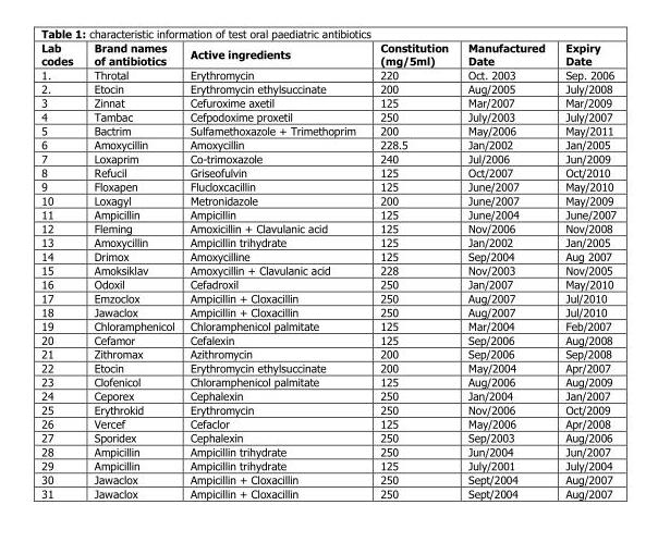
<table><thead><tr><td>Lab codes</td><td>Brand names of antibiotics</td><td>Active ingredients</td><td>Constitution (mg/5ml)</td><td>Manufactured Date</td><td>Expiry Date</td></tr></thead><tbody><tr><td>1.</td><td>Throtal</td><td>Erythromycin</td><td>220</td><td>Oct. 2003</td><td>Sep. 2006</td></tr><tr><td>2.</td><td>Etocin</td><td>Erythromycin ethylsuccinate</td><td>200</td><td>Aug/2005</td><td>July/2008</td></tr><tr><td>3</td><td>Zinnat</td><td>Cefuroxime axetil</td><td>125</td><td>Mar/2007</td><td>Mar/2009</td></tr><tr><td>4</td><td>Tambac</td><td>Cefpodoxime proxetil</td><td>250</td><td>July/2003</td><td>July/2007</td></tr><tr><td>5</td><td>Bactrim</td><td>Sulfamethoxazole + Trimethoprim</td><td>200</td><td>May/2006</td><td>May/2011</td></tr><tr><td>6</td><td>Amoxycillin</td><td>Amoxycillin</td><td>228.5</td><td>Jan/2002</td><td>Jan/2005</td></tr><tr><td>7</td><td>Loxaprim</td><td>Co-trimoxazole</td><td>240</td><td>Jul/2006</td><td>Jun/2009</td></tr><tr><td>8</td><td>Refucil</td><td>Griseofulvin</td><td>125</td><td>Oct/2007</td><td>Oct/2010</td></tr><tr><td>9</td><td>Floxapen</td><td>Flucloxcacillin</td><td>125</td><td>June/2007</td><td>May/2010</td></tr><tr><td>10</td><td>Loxagyl</td><td>Metronidazole</td><td>200</td><td>June/2007</td><td>May/2009</td></tr><tr><td>11</td><td>Ampicillin</td><td>Ampicillin</td><td>125</td><td>June/2004</td><td>June/2007</td></tr><tr><td>12</td><td>Fleming</td><td>Amoxicillin + Clavulanic acid</td><td>125</td><td>Nov/2006</td><td>Nov/2008</td></tr><tr><td>13</td><td>Amoxycillin</td><td>Ampicillin trihydrate</td><td>125</td><td>Jan/2002</td><td>Jan/2005</td></tr><tr><td>14</td><td>Drimox</td><td>Amoxycilline</td><td>125</td><td>Sep/2004</td><td>Aug 2007</td></tr><tr><td>15</td><td>Amoksiklav</td><td>Amoxycillin + Clavulanic acid</td><td>228</td><td>Nov/2003</td><td>Nov/2005</td></tr><tr><td>16</td><td>Odoxil</td><td>Cefadroxil</td><td>250</td><td>Jan/2007</td><td>May/2010</td></tr><tr><td>17</td><td>Emzoclox</td><td>Ampicillin + Cloxacillin</td><td>250</td><td>Aug/2007</td><td>Jul/2010</td></tr><tr><td>18</td><td>Jawaclox</td><td>Ampicillin + Cloxacillin</td><td>250</td><td>Aug/2007</td><td>Jul/2010</td></tr><tr><td>19</td><td>Chloramphenicol</td><td>Chloramphenicol palmitate</td><td>125</td><td>Mar/2004</td><td>Feb/2007</td></tr><tr><td>20</td><td>Cefamor</td><td>Cefalexin</td><td>125</td><td>Sep/2006</td><td>Aug/2008</td></tr><tr><td>21</td><td>Zithromax</td><td>Azithromycin</td><td>200</td><td>Sep/2006</td><td>Sep/2008</td></tr><tr><td>22</td><td>Etocin</td><td>Erythromycin ethylsuccinate</td><td>200</td><td>May/2004</td><td>Apr/2007</td></tr><tr><td>23</td><td>Clofenicol</td><td>Chloramphenicol palmitate</td><td>125</td><td>Aug/2006</td><td>Aug/2009</td></tr><tr><td>24</td><td>Ceporex</td><td>Cephalexin</td><td>250</td><td>Jan/2004</td><td>Jan/2007</td></tr><tr><td>25</td><td>Erythrokid</td><td>Erythromycin</td><td>250</td><td>Nov/2006</td><td>Oct/2009</td></tr><tr><td>26</td><td>Vercef</td><td>Cefaclor</td><td>125</td><td>May/2006</td><td>Apr/2008</td></tr><tr><td>27</td><td>Sporidex</td><td>Cephalexin</td><td>250</td><td>Sep/2003</td><td>Aug/2006</td></tr><tr><td>28</td><td>Ampicillin</td><td>Ampicillin trihydrate</td><td>250</td><td>Jun/2004</td><td>Jun/2007</td></tr><tr><td>29</td><td>Ampicillin</td><td>Ampicillin trihydrate</td><td>125</td><td>July/2001</td><td>July/2004</td></tr><tr><td>30</td><td>Jawaclox</td><td>Ampicillin + Cloxacillin</td><td>250</td><td>Sept/2004</td><td>Aug/2007</td></tr><tr><td>31</td><td>Jawaclox</td><td>Ampicillin + Cloxacillin</td><td>250</td><td>Sept/2004</td><td>Aug/2007</td></tr></tbody></table>